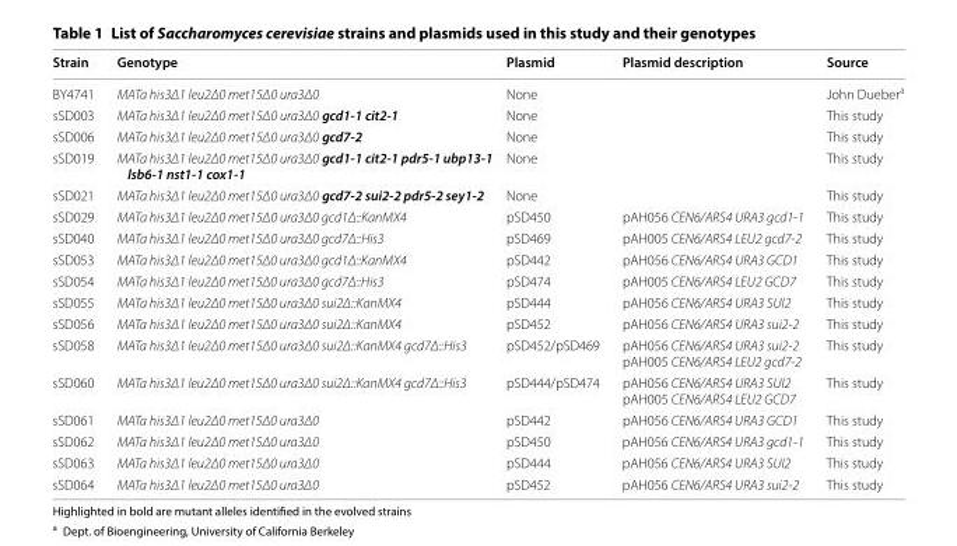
<table><thead><tr><td>Strain</td><td>Genotype</td><td>Plasmid</td><td>Plasmid description</td><td>Source</td></tr></thead><tbody><tr><td>BY4741</td><td>MATa his3Δ1 leu2Δ0 met15Δ0 ura3Δ0</td><td>None</td><td></td><td>John Dueber<sup>a</sup></td></tr><tr><td>sSD003</td><td>MATa his3Δ1 leu2Δ0 met15Δ0 ura3Δ0 gcd1-1 cit2-1</td><td>None</td><td></td><td>This study</td></tr><tr><td>sSD006</td><td>MATa his3Δ1 leu2Δ0 met15Δ0 ura3Δ0 gcd7-2</td><td>None</td><td></td><td>This study</td></tr><tr><td>sSD019</td><td>MATa his3Δ1 leu2Δ0 met15Δ0 ura3Δ0 gcd1-1 cit2-1 pdr5-1 ubp13-1 lsb6-1 nst1-1 cox1-1</td><td>None</td><td></td><td>This study</td></tr><tr><td>sSD021</td><td>MATa his3Δ1 leu2Δ0 met15Δ0 ura3Δ0 gcd7-2 sui2-2 pdr5-2 sey1-2</td><td>None</td><td></td><td>This study</td></tr><tr><td>sSD029</td><td>MATa his3Δ1 leu2Δ0 met15Δ0 ura3Δ0 gcd1Δ::KanMX4</td><td>pSD450</td><td>pAH056 CEN6/ARS4 URA3 gcd1‑1</td><td>This study</td></tr><tr><td>sSD040</td><td>MATa his3Δ1 leu2Δ0 met15Δ0 ura3Δ0 gcd7Δ::His3</td><td>pSD469</td><td>pAH005 CEN6/ARS4 LEU2 gcd7‑2</td><td>This study</td></tr><tr><td>sSD053</td><td>MATa his3Δ1 leu2Δ0 met15Δ0 ura3Δ0 gcd1Δ::KanMX4</td><td>pSD442</td><td>pAH056 CEN6/ARS4 URA3 GCD1</td><td>This study</td></tr><tr><td>sSD054</td><td>MATa his3Δ1 leu2Δ0 met15Δ0 ura3Δ0 gcd7Δ::His3</td><td>pSD474</td><td>pAH005 CEN6/ARS4 LEU2 GCD7</td><td>This study</td></tr><tr><td>sSD055</td><td>MATa his3Δ1 leu2Δ0 met15Δ0 ura3Δ0 sui2Δ::KanMX4</td><td>pSD444</td><td>pAH056 CEN6/ARS4 URA3 SUI2</td><td>This study</td></tr><tr><td>sSD056</td><td>MATa his3Δ1 leu2Δ0 met15Δ0 ura3Δ0 sui2Δ::KanMX4</td><td>pSD452</td><td>pAH056 CEN6/ARS4 URA3 sui2‑2</td><td>This study</td></tr><tr><td>sSD058</td><td>MATa his3Δ1 leu2Δ0 met15Δ0 ura3Δ0 sui2Δ::KanMX4 gcd7Δ::His3</td><td>pSD452/pSD469</td><td>pAH056 CEN6/ARS4 URA3 sui2‑2 pAH005 CEN6/ARS4 LEU2 gcd7‑2</td><td>This study</td></tr><tr><td>sSD060</td><td>MATa his3Δ1 leu2Δ0 met15Δ0 ura3Δ0 sui2Δ::KanMX4 gcd7Δ::His3</td><td>pSD444/pSD474</td><td>pAH056 CEN6/ARS4 URA3 SUI2 pAH005 CEN6/ARS4 LEU2 GCD7</td><td>This study</td></tr><tr><td>sSD061</td><td>MATa his3Δ1 leu2Δ0 met15Δ0 ura3Δ0</td><td>pSD442</td><td>pAH056 CEN6/ARS4 URA3 GCD1</td><td>This study</td></tr><tr><td>sSD062</td><td>MATa his3Δ1 leu2Δ0 met15Δ0 ura3Δ0</td><td>pSD450</td><td>pAH056 CEN6/ARS4 URA3 gcd1‑1</td><td>This study</td></tr><tr><td>sSD063</td><td>MATa his3Δ1 leu2Δ0 met15Δ0 ura3Δ0</td><td>pSD444</td><td>pAH056 CEN6/ARS4 URA3 SUI2</td><td>This study</td></tr><tr><td>sSD064</td><td>MATa his3Δ1 leu2Δ0 met15Δ0 ura3Δ0</td><td>pSD452</td><td>pAH056 CEN6/ARS4 URA3 sui2‑2</td><td>This study</td></tr></tbody></table>